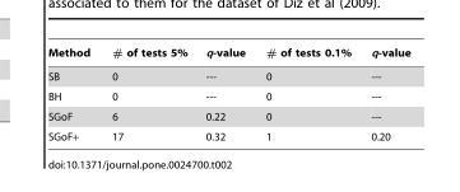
<table><thead><tr><td>Method</td><td># of tests 5%</td><td>q-value</td><td># of tests 0.1%</td><td>q-value</td></tr></thead><tbody><tr><td>SB</td><td>0</td><td>---</td><td>0</td><td>---</td></tr><tr><td>BH</td><td>0</td><td>---</td><td>0</td><td>---</td></tr><tr><td>SGoF</td><td>6</td><td>0.22</td><td>0</td><td>---</td></tr><tr><td>SGoF+</td><td>17</td><td>0.32</td><td>1</td><td>0.20</td></tr></tbody></table>